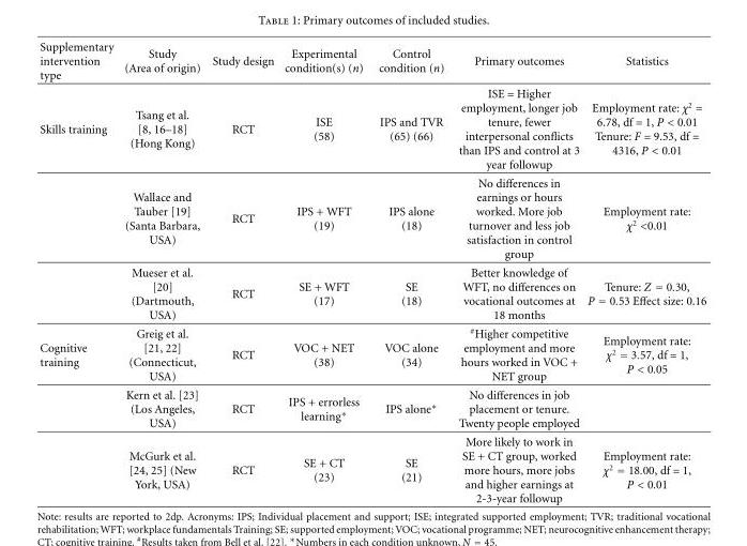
<table><thead><tr><td>Supplementary intervention type</td><td>Study (Area of origin)</td><td>Study design</td><td>Experimental condition(s) (n)</td><td>Control condition (n)</td><td>Primary outcomes</td><td>Statistics</td></tr></thead><tbody><tr><td rowspan="3">Skills training</td><td>Tsang et al. [8, 16–18] (Hong Kong)</td><td>RCT</td><td>ISE (58)</td><td>IPS and TVR (65) (66)</td><td>ISE = Higher employment, longer job tenure, fewer interpersonal conflicts than IPS and control at 3 year followup</td><td>Employment rate: χ<sup>2</sup> = 6.78, df = 1, P &lt; 0.01 Tenure: F = 9.53, df = 4316, P &lt; 0.01</td></tr><tr><td>Wallace and Tauber [19] (Santa Barbara, USA)</td><td>RCT</td><td>IPS + WFT (19)</td><td>IPS alone (18)</td><td>No differences in earnings or hours worked. More job turnover and less job satisfaction in control group</td><td>Employment rate: χ<sup>2</sup> &lt;0.01</td></tr><tr><td>Mueser et al. [20] (Dartmouth, USA)</td><td>RCT</td><td>SE + WFT (17)</td><td>SE (18)</td><td>Better knowledge of WFT, no differences on vocational outcomes at 18 months</td><td>Tenure: Z = 0.30, P = 0.53 Effect size: 0.16</td></tr><tr><td rowspan="3">Cognitive training</td><td>Greig et al. [21, 22] (Connecticut, USA)</td><td>RCT</td><td>VOC + NET (38)</td><td>VOC alone (34)</td><td><sup>#</sup>Higher competitive employment and more hours worked in VOC + NET group</td><td>Employment rate: χ<sup>2</sup> = 3.57, df = 1, P &lt; 0.05</td></tr><tr><td>Kern et al. [23] (Los Angeles, USA)</td><td>RCT</td><td>IPS + errorless learning∗</td><td>IPS alone∗</td><td>No differences in job placement or tenure. Twenty people employed</td><td></td></tr><tr><td>McGurk et al. [24, 25] (New York, USA)</td><td>RCT</td><td>SE + CT (23)</td><td>SE (21)</td><td>More likely to work in SE + CT group, worked more hours, more jobs and higher earnings at 2-3-year followup</td><td>Employment rate: χ2 = 18.00, df = 1, P &lt; 0.01</td></tr></tbody></table>